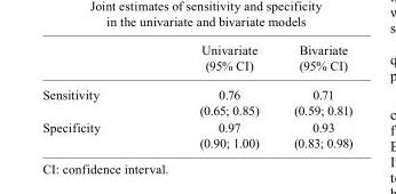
<table><thead><tr><td></td><td>Univariate (95% CI)</td><td>Bivariate (95% CI)</td></tr></thead><tbody><tr><td>Sensitivity</td><td>0.76 (0.65; 0.85)</td><td>0.71 (0.59; 0.81)</td></tr><tr><td>Specificity</td><td>0.97 (0.90; 1.00)</td><td>0.93 (0.83; 0.98)</td></tr></tbody></table>